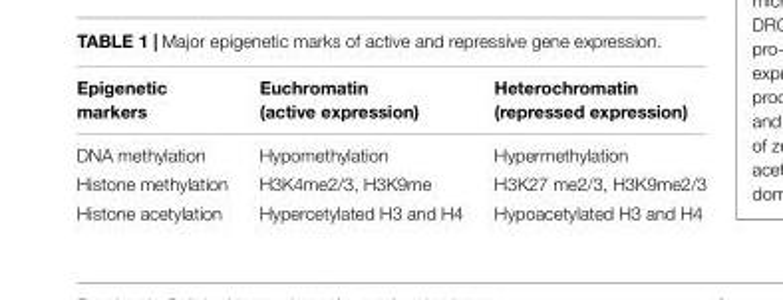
<table><thead><tr><td>Epigenetic markers</td><td>Euchromatin (active expression)</td><td>Heterochromatin (repressed expression)</td></tr></thead><tbody><tr><td>DNA methylation</td><td>Hypomethylation</td><td>Hypermethylation</td></tr><tr><td>Histone methylation</td><td>H3K4me2/3, H3K9me</td><td>H3K27 me2/3, H3K9me2/3</td></tr><tr><td>Histone acetylation</td><td>Hypercetylated H3 and H4</td><td>Hypoacetylated H3 and H4</td></tr></tbody></table>